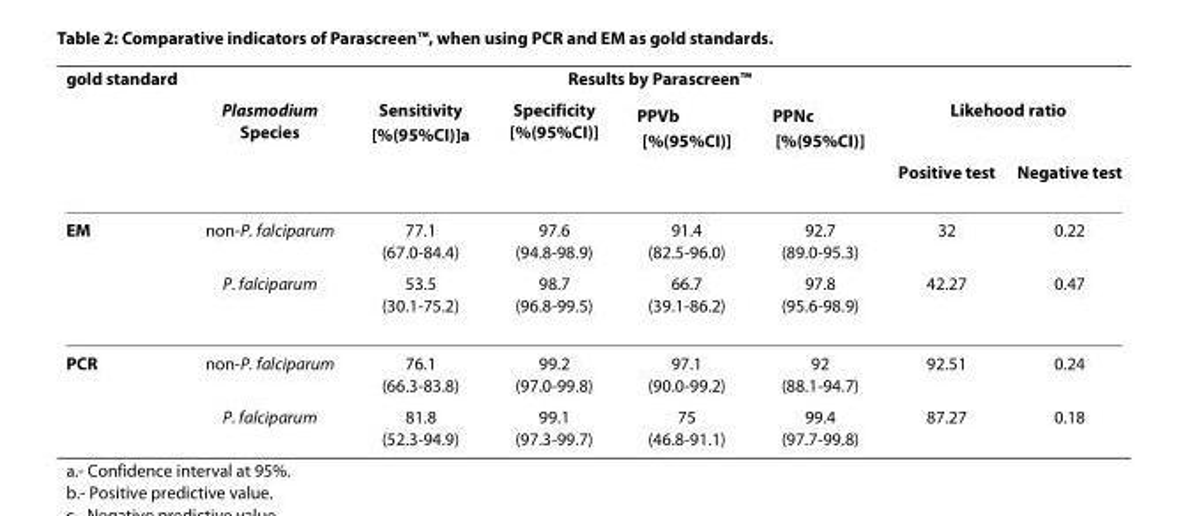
<table><thead><tr><td rowspan="3">gold standard</td><td colspan="7">Results by Parascreen™</td></tr><tr><td rowspan="2">Plasmodium Species</td><td rowspan="2">Sensitivity [%(95%CI)]<sup>a</sup></td><td rowspan="2">Specificity [%(95%CI)]</td><td rowspan="2">PPV<sup>b</sup> [%(95%CI)]</td><td rowspan="2">PPN<sup>c</sup> [%(95%CI)]</td><td colspan="2">Likehood ratio</td></tr><tr><td>Positive test</td><td>Negative test</td></tr></thead><tbody><tr><td rowspan="2">EM</td><td>non-P. falciparum</td><td>77.1 (67.0-84.4)</td><td>97.6 (94.8-98.9)</td><td>91.4 (82.5-96.0)</td><td>92.7 (89.0-95.3)</td><td>32</td><td>0.22</td></tr><tr><td>P. falciparum</td><td>53.5 (30.1-75.2)</td><td>98.7 (96.8-99.5)</td><td>66.7 (39.1-86.2)</td><td>97.8 (95.6-98.9)</td><td>42.27</td><td>0.47</td></tr><tr><td rowspan="2">PCR</td><td>non-P. falciparum</td><td>76.1 (66.3-83.8)</td><td>99.2 (97.0-99.8)</td><td>97.1 (90.0-99.2)</td><td>92 (88.1-94.7)</td><td>92.51</td><td>0.24</td></tr><tr><td>P. falciparum</td><td>81.8 (52.3-94.9)</td><td>99.1 (97.3-99.7)</td><td>75 (46.8-91.1)</td><td>99.4 (97.7-99.8)</td><td>87.27</td><td>0.18</td></tr></tbody></table>